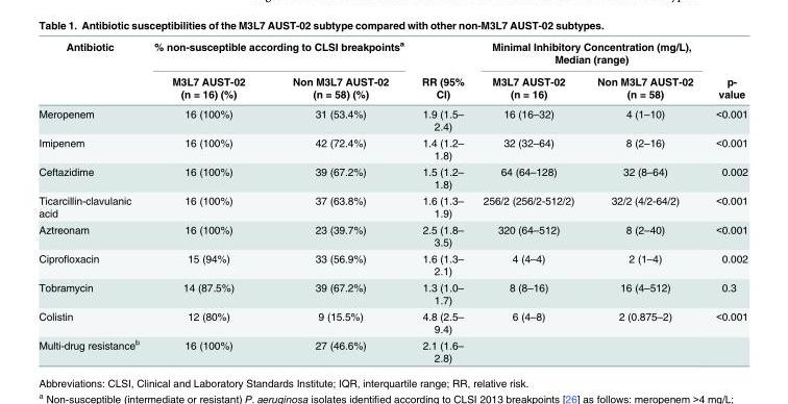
<table><thead><tr><td rowspan="2">Antibiotic</td><td colspan="2">% non-susceptible according to CLSI breakpoints<sup>a</sup></td><td rowspan="2">RR (95% CI)</td><td colspan="2">Minimal Inhibitory Concentration (mg/L), Median (range)</td><td rowspan="2">p- value</td></tr><tr><td>M3L7 AUST-02 (n = 16) (%)</td><td>Non M3L7 AUST-02 (n = 58) (%)</td><td>M3L7 AUST-02 (n = 16)</td><td>Non M3L7 AUST-02 (n = 58)</td></tr></thead><tbody><tr><td>Meropenem</td><td>16 (100%)</td><td>31 (53.4%)</td><td>1.9 (1.5– 2.4)</td><td>16 (16–32)</td><td>4 (1–10)</td><td>&lt;0.001</td></tr><tr><td>Imipenem</td><td>16 (100%)</td><td>42 (72.4%)</td><td>1.4 (1.2– 1.8)</td><td>32 (32–64)</td><td>8 (2–16)</td><td>&lt;0.001</td></tr><tr><td>Ceftazidime</td><td>16 (100%)</td><td>39 (67.2%)</td><td>1.5 (1.2– 1.8)</td><td>64 (64–128)</td><td>32 (8–64)</td><td>0.002</td></tr><tr><td>Ticarcillin-clavulanic acid</td><td>16 (100%)</td><td>37 (63.8%)</td><td>1.6 (1.3– 1.9)</td><td>256/2 (256/2-512/2)</td><td>32/2 (4/2-64/2)</td><td>&lt;0.001</td></tr><tr><td>Aztreonam</td><td>16 (100%)</td><td>23 (39.7%)</td><td>2.5 (1.8– 3.5)</td><td>320 (64–512)</td><td>8 (2–40)</td><td>&lt;0.001</td></tr><tr><td>Ciprofloxacin</td><td>15 (94%)</td><td>33 (56.9%)</td><td>1.6 (1.3– 2.1)</td><td>4 (4–4)</td><td>2 (1–4)</td><td>0.002</td></tr><tr><td>Tobramycin</td><td>14 (87.5%)</td><td>39 (67.2%)</td><td>1.3 (1.0– 1.7)</td><td>8 (8–16)</td><td>16 (4–512)</td><td>0.3</td></tr><tr><td>Colistin</td><td>12 (80%)</td><td>9 (15.5%)</td><td>4.8 (2.5– 9.4)</td><td>6 (4–8)</td><td>2 (0.875–2)</td><td>&lt;0.001</td></tr><tr><td>Multi-drug resistance<sup>b</sup></td><td>16 (100%)</td><td>27 (46.6%)</td><td>2.1 (1.6– 2.8)</td><td></td><td></td><td></td></tr></tbody></table>